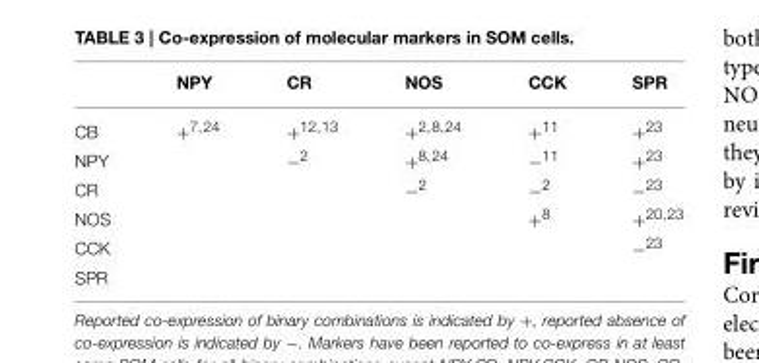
<table><thead><tr><td></td><td>NPY</td><td>CR</td><td>NOS</td><td>CCK</td><td>SPR</td></tr></thead><tbody><tr><td>CB</td><td>+<sup>7,24</sup></td><td>+<sup>12,13</sup></td><td>+<sup>2,8,24</sup></td><td>+<sup>11</sup></td><td>+<sup>23</sup></td></tr><tr><td>NPY</td><td></td><td>−<sup>2</sup></td><td>+<sup>8,24</sup></td><td>−<sup>11</sup></td><td>+<sup>23</sup></td></tr><tr><td>CR</td><td></td><td></td><td>−<sup>2</sup></td><td>−<sup>2</sup></td><td>−<sup>23</sup></td></tr><tr><td>NOS</td><td></td><td></td><td></td><td>+<sup>8</sup></td><td>+<sup>20,23</sup></td></tr><tr><td>CCK</td><td></td><td></td><td></td><td></td><td>−<sup>23</sup></td></tr><tr><td>SPR</td><td></td><td></td><td></td><td></td><td></td></tr></tbody></table>